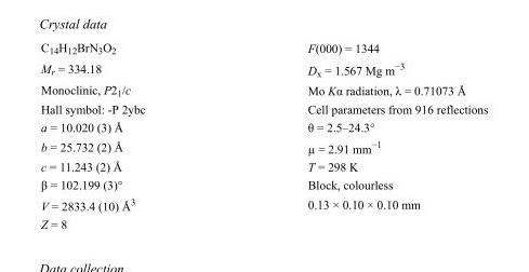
<table><tbody><tr><td>C<sub>14</sub>H<sub>12</sub>BrN<sub>3</sub>O<sub>2</sub></td><td>F(000) = 1344</td></tr><tr><td>M<sub>r</sub> = 334.18</td><td>D<sub>x</sub> = 1.567 Mg m<sup>−3</sup></td></tr><tr><td>Monoclinic, P2<sub>1</sub>/c</td><td>Mo Kα radiation, λ = 0.71073 Å</td></tr><tr><td>Hall symbol: -P 2ybc</td><td>Cell parameters from 916 reflections</td></tr><tr><td>a = 10.020 (3) Å</td><td>θ = 2.5–24.3°</td></tr><tr><td>b = 25.732 (2) Å</td><td>µ = 2.91 mm<sup>−1</sup></td></tr><tr><td>c = 11.243 (2) Å</td><td>T = 298 K</td></tr><tr><td>β = 102.199 (3)°</td><td>Block, colourless</td></tr><tr><td>V = 2833.4 (10) Å<sup>3</sup></td><td>0.13 × 0.10 × 0.10 mm</td></tr><tr><td>Z = 8</td><td></td></tr></tbody></table>